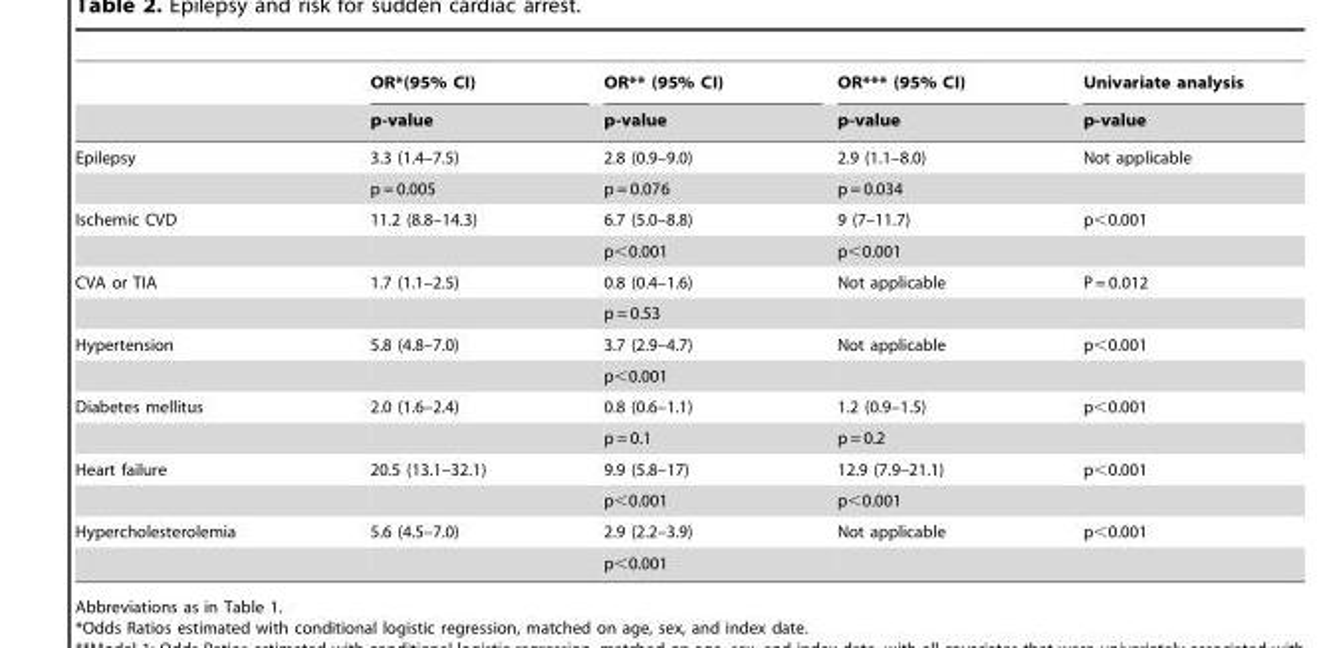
<table><thead><tr><td rowspan="2"></td><td rowspan="2">OR*(95% CI) p-value</td><td rowspan="2">OR** (95% CI) p-value</td><td rowspan="2">OR*** (95% CI) p-value</td><td rowspan="2">Univariate analysis p-value</td></tr><tr></tr></thead><tbody><tr><td rowspan="2">Epilepsy</td><td>3.3 (1.4–7.5)</td><td>2.8 (0.9–9.0)</td><td>2.9 (1.1–8.0)</td><td>Not applicable</td></tr><tr><td>p = 0.005</td><td>p = 0.076</td><td>p = 0.034</td><td></td></tr><tr><td rowspan="2">Ischemic CVD</td><td>11.2 (8.8–14.3)</td><td>6.7 (5.0–8.8)</td><td>9 (7–11.7)</td><td>p&lt;0.001</td></tr><tr><td></td><td>p&lt;0.001</td><td>p&lt;0.001</td><td></td></tr><tr><td rowspan="2">CVA or TIA</td><td>1.7 (1.1–2.5)</td><td>0.8 (0.4–1.6)</td><td>Not applicable</td><td>P = 0.012</td></tr><tr><td></td><td>p = 0.53</td><td></td><td></td></tr><tr><td rowspan="2">Hypertension</td><td>5.8 (4.8–7.0)</td><td>3.7 (2.9–4.7)</td><td>Not applicable</td><td>p&lt;0.001</td></tr><tr><td></td><td>p&lt;0.001</td><td></td><td></td></tr><tr><td rowspan="2">Diabetes mellitus</td><td>2.0 (1.6–2.4)</td><td>0.8 (0.6–1.1)</td><td>1.2 (0.9–1.5)</td><td>p&lt;0.001</td></tr><tr><td></td><td>p = 0.1</td><td>p = 0.2</td><td></td></tr><tr><td rowspan="2">Heart failure</td><td>20.5 (13.1–32.1)</td><td>9.9 (5.8–17)</td><td>12.9 (7.9–21.1)</td><td>p&lt;0.001</td></tr><tr><td></td><td>p&lt;0.001</td><td>p&lt;0.001</td><td></td></tr><tr><td rowspan="2">Hypercholesterolemia</td><td>5.6 (4.5–7.0)</td><td>2.9 (2.2–3.9)</td><td>Not applicable</td><td>p&lt;0.001</td></tr><tr><td></td><td>p&lt;0.001</td><td></td><td></td></tr></tbody></table>